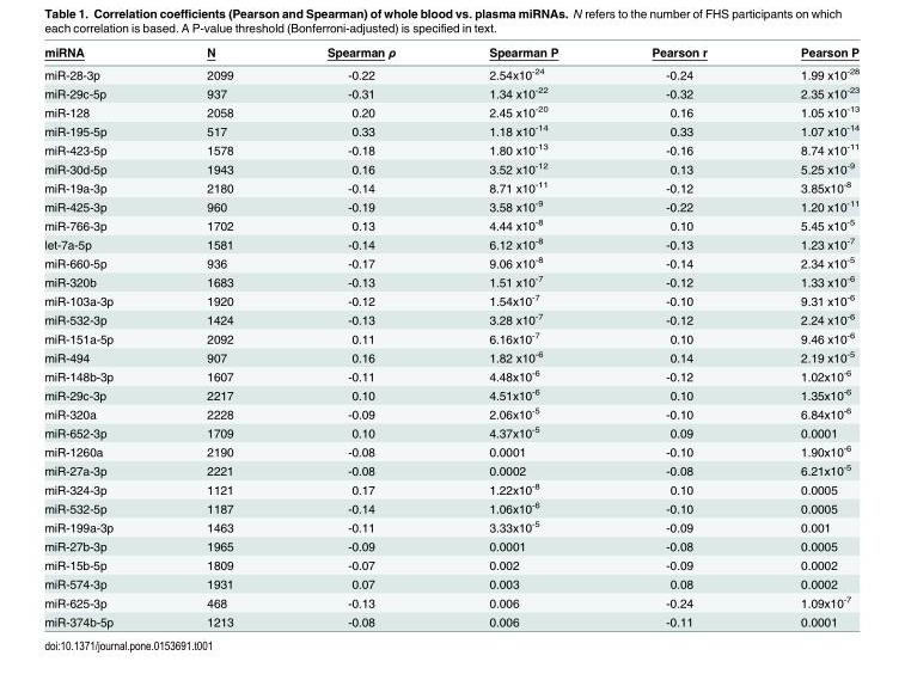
<table><thead><tr><td>miRNA</td><td>N</td><td>Spearman ρ</td><td>Spearman P</td><td>Pearson r</td><td>Pearson P</td></tr></thead><tbody><tr><td>miR-28-3p</td><td>2099</td><td>-0.22</td><td>2.54x10<sup>-24</sup></td><td>-0.24</td><td>1.99 x10<sup>-28</sup></td></tr><tr><td>miR-29c-5p</td><td>937</td><td>-0.31</td><td>1.34 x10<sup>-22</sup></td><td>-0.32</td><td>2.35 x10<sup>-23</sup></td></tr><tr><td>miR-128</td><td>2058</td><td>0.20</td><td>2.45 x10<sup>-20</sup></td><td>0.16</td><td>1.05 x10<sup>-13</sup></td></tr><tr><td>miR-195-5p</td><td>517</td><td>0.33</td><td>1.18 x10<sup>-14</sup></td><td>0.33</td><td>1.07 x10<sup>-14</sup></td></tr><tr><td>miR-423-5p</td><td>1578</td><td>-0.18</td><td>1.80 x10<sup>-13</sup></td><td>-0.16</td><td>8.74 x10<sup>-11</sup></td></tr><tr><td>miR-30d-5p</td><td>1943</td><td>0.16</td><td>3.52 x10<sup>-12</sup></td><td>0.13</td><td>5.25 x10<sup>-9</sup></td></tr><tr><td>miR-19a-3p</td><td>2180</td><td>-0.14</td><td>8.71 x10<sup>-11</sup></td><td>-0.12</td><td>3.85x10<sup>-8</sup></td></tr><tr><td>miR-425-3p</td><td>960</td><td>-0.19</td><td>3.58 x10<sup>-9</sup></td><td>-0.22</td><td>1.20 x10<sup>-11</sup></td></tr><tr><td>miR-766-3p</td><td>1702</td><td>0.13</td><td>4.44 x10<sup>-8</sup></td><td>0.10</td><td>5.45 x10<sup>-5</sup></td></tr><tr><td>let-7a-5p</td><td>1581</td><td>-0.14</td><td>6.12 x10<sup>-8</sup></td><td>-0.13</td><td>1.23 x10<sup>-7</sup></td></tr><tr><td>miR-660-5p</td><td>936</td><td>-0.17</td><td>9.06 x10<sup>-8</sup></td><td>-0.14</td><td>2.34 x10<sup>-5</sup></td></tr><tr><td>miR-320b</td><td>1683</td><td>-0.13</td><td>1.51 x10<sup>-7</sup></td><td>-0.12</td><td>1.33 x10<sup>-6</sup></td></tr><tr><td>miR-103a-3p</td><td>1920</td><td>-0.12</td><td>1.54x10<sup>-7</sup></td><td>-0.10</td><td>9.31 x10<sup>-6</sup></td></tr><tr><td>miR-532-3p</td><td>1424</td><td>-0.13</td><td>3.28 x10<sup>-7</sup></td><td>-0.12</td><td>2.24 x10<sup>-6</sup></td></tr><tr><td>miR-151a-5p</td><td>2092</td><td>0.11</td><td>6.16x10<sup>-7</sup></td><td>0.10</td><td>9.46 x10<sup>-6</sup></td></tr><tr><td>miR-494</td><td>907</td><td>0.16</td><td>1.82 x10<sup>-6</sup></td><td>0.14</td><td>2.19 x10<sup>-5</sup></td></tr><tr><td>miR-148b-3p</td><td>1607</td><td>-0.11</td><td>4.48x10<sup>-6</sup></td><td>-0.12</td><td>1.02x10<sup>-6</sup></td></tr><tr><td>miR-29c-3p</td><td>2217</td><td>0.10</td><td>4.51x10<sup>-6</sup></td><td>0.10</td><td>1.35x10<sup>-6</sup></td></tr><tr><td>miR-320a</td><td>2228</td><td>-0.09</td><td>2.06x10<sup>-5</sup></td><td>-0.10</td><td>6.84x10<sup>-6</sup></td></tr><tr><td>miR-652-3p</td><td>1709</td><td>0.10</td><td>4.37x10<sup>-5</sup></td><td>0.09</td><td>0.0001</td></tr><tr><td>miR-1260a</td><td>2190</td><td>-0.08</td><td>0.0001</td><td>-0.10</td><td>1.90x10<sup>-6</sup></td></tr><tr><td>miR-27a-3p</td><td>2221</td><td>-0.08</td><td>0.0002</td><td>-0.08</td><td>6.21x10<sup>-5</sup></td></tr><tr><td>miR-324-3p</td><td>1121</td><td>0.17</td><td>1.22x10<sup>-8</sup></td><td>0.10</td><td>0.0005</td></tr><tr><td>miR-532-5p</td><td>1187</td><td>-0.14</td><td>1.06x10<sup>-6</sup></td><td>-0.10</td><td>0.0005</td></tr><tr><td>miR-199a-3p</td><td>1463</td><td>-0.11</td><td>3.33x10<sup>-5</sup></td><td>-0.09</td><td>0.001</td></tr><tr><td>miR-27b-3p</td><td>1965</td><td>-0.09</td><td>0.0001</td><td>-0.08</td><td>0.0005</td></tr><tr><td>miR-15b-5p</td><td>1809</td><td>-0.07</td><td>0.002</td><td>-0.09</td><td>0.0002</td></tr><tr><td>miR-574-3p</td><td>1931</td><td>0.07</td><td>0.003</td><td>0.08</td><td>0.0002</td></tr><tr><td>miR-625-3p</td><td>468</td><td>-0.13</td><td>0.006</td><td>-0.24</td><td>1.09x10<sup>-7</sup></td></tr><tr><td>miR-374b-5p</td><td>1213</td><td>-0.08</td><td>0.006</td><td>-0.11</td><td>0.0001</td></tr></tbody></table>